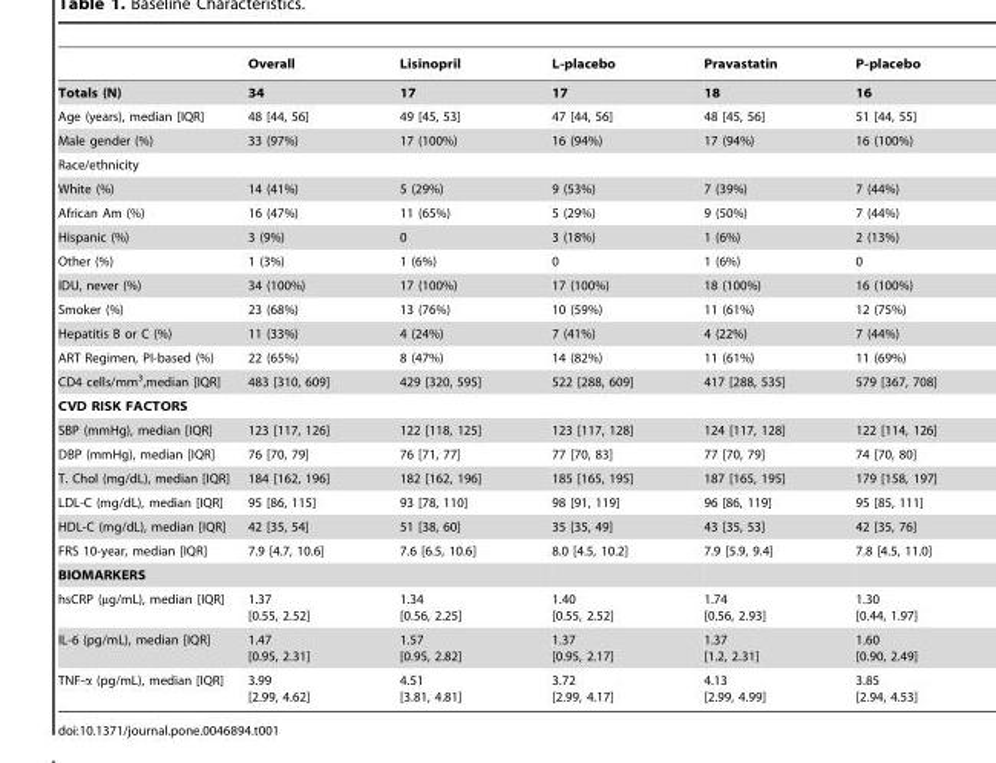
<table><thead><tr><td></td><td>Overall</td><td>Lisinopril</td><td>L-placebo</td><td>Pravastatin</td><td>P-placebo</td></tr></thead><tbody><tr><td>Totals (N)</td><td>34</td><td>17</td><td>17</td><td>18</td><td>16</td></tr><tr><td>Age (years), median [IQR]</td><td>48 [44, 56]</td><td>49 [45, 53]</td><td>47 [44, 56]</td><td>48 [45, 56]</td><td>51 [44, 55]</td></tr><tr><td>Male gender (%)</td><td>33 (97%)</td><td>17 (100%)</td><td>16 (94%)</td><td>17 (94%)</td><td>16 (100%)</td></tr><tr><td colspan="6">Race/ethnicity</td></tr><tr><td>White (%)</td><td>14 (41%)</td><td>5 (29%)</td><td>9 (53%)</td><td>7 (39%)</td><td>7 (44%)</td></tr><tr><td>African Am (%)</td><td>16 (47%)</td><td>11 (65%)</td><td>5 (29%)</td><td>9 (50%)</td><td>7 (44%)</td></tr><tr><td>Hispanic (%)</td><td>3 (9%)</td><td>0</td><td>3 (18%)</td><td>1 (6%)</td><td>2 (13%)</td></tr><tr><td>Other (%)</td><td>1 (3%)</td><td>1 (6%)</td><td>0</td><td>1 (6%)</td><td>0</td></tr><tr><td>IDU, never (%)</td><td>34 (100%)</td><td>17 (100%)</td><td>17 (100%)</td><td>18 (100%)</td><td>16 (100%)</td></tr><tr><td>Smoker (%)</td><td>23 (68%)</td><td>13 (76%)</td><td>10 (59%)</td><td>11 (61%)</td><td>12 (75%)</td></tr><tr><td>Hepatitis B or C (%)</td><td>11 (33%)</td><td>4 (24%)</td><td>7 (41%)</td><td>4 (22%)</td><td>7 (44%)</td></tr><tr><td>ART Regimen, PI-based (%)</td><td>22 (65%)</td><td>8 (47%)</td><td>14 (82%)</td><td>11 (61%)</td><td>11 (69%)</td></tr><tr><td>CD4 cells/mm<sup>3</sup>,median [IQR]</td><td>483 [310, 609]</td><td>429 [320, 595]</td><td>522 [288, 609]</td><td>417 [288, 535]</td><td>579 [367, 708]</td></tr><tr><td colspan="6">CVD RISK FACTORS</td></tr><tr><td>SBP (mmHg), median [IQR]</td><td>123 [117, 126]</td><td>122 [118, 125]</td><td>123 [117, 128]</td><td>124 [117, 128]</td><td>122 [114, 126]</td></tr><tr><td>DBP (mmHg), median [IQR]</td><td>76 [70, 79]</td><td>76 [71, 77]</td><td>77 [70, 83]</td><td>77 [70, 79]</td><td>74 [70, 80]</td></tr><tr><td>T. Chol (mg/dL), median [IQR]</td><td>184 [162, 196]</td><td>182 [162, 196]</td><td>185 [165, 195]</td><td>187 [165, 195]</td><td>179 [158, 197]</td></tr><tr><td>LDL-C (mg/dL), median [IQR]</td><td>95 [86, 115]</td><td>93 [78, 110]</td><td>98 [91, 119]</td><td>96 [86, 119]</td><td>95 [85, 111]</td></tr><tr><td>HDL-C (mg/dL), median [IQR]</td><td>42 [35, 54]</td><td>51 [38, 60]</td><td>35 [35, 49]</td><td>43 [35, 53]</td><td>42 [35, 76]</td></tr><tr><td>FRS 10-year, median [IQR]</td><td>7.9 [4.7, 10.6]</td><td>7.6 [6.5, 10.6]</td><td>8.0 [4.5, 10.2]</td><td>7.9 [5.9, 9.4]</td><td>7.8 [4.5, 11.0]</td></tr><tr><td colspan="6">BIOMARKERS</td></tr><tr><td>hsCRP (µg/mL), median [IQR]</td><td>1.37 [0.55, 2.52]</td><td>1.34 [0.56, 2.25]</td><td>1.40 [0.55, 2.52]</td><td>1.74 [0.56, 2.93]</td><td>1.30 [0.44, 1.97]</td></tr><tr><td>IL-6 (pg/mL), median [IQR]</td><td>1.47 [0.95, 2.31]</td><td>1.57 [0.95, 2.82]</td><td>1.37 [0.95, 2.17]</td><td>1.37 [1.2, 2.31]</td><td>1.60 [0.90, 2.49]</td></tr><tr><td>TNF-α (pg/mL), median [IQR]</td><td>3.99 [2.99, 4.62]</td><td>4.51 [3.81, 4.81]</td><td>3.72 [2.99, 4.17]</td><td>4.13 [2.99, 4.99]</td><td>3.85 [2.94, 4.53]</td></tr></tbody></table>